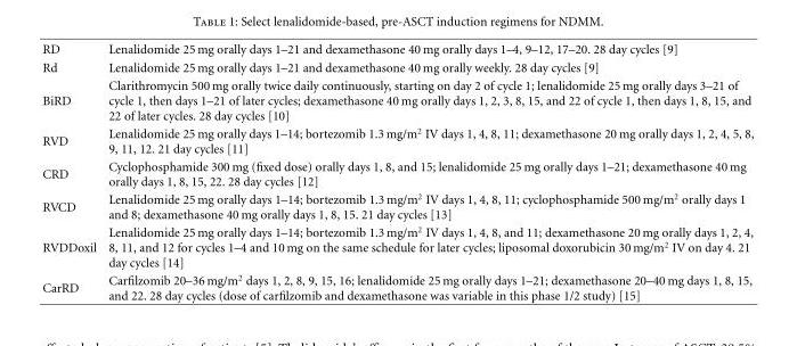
<table><tbody><tr><td>RD</td><td>Lenalidomide 25 mg orally days 1–21 and dexamethasone 40 mg orally days 1–4, 9–12, 17–20. 28 day cycles [9]</td></tr><tr><td>Rd</td><td>Lenalidomide 25 mg orally days 1–21 and dexamethasone 40 mg orally weekly. 28 day cycles [9]</td></tr><tr><td>BiRD</td><td>Clarithromycin 500 mg orally twice daily continuously, starting on day 2 of cycle 1; lenalidomide 25 mg orally days 3–21 of cycle 1, then days 1–21 of later cycles; dexamethasone 40 mg orally days 1, 2, 3, 8, 15, and 22 of cycle 1, then days 1, 8, 15, and 22 of later cycles. 28 day cycles [10]</td></tr><tr><td>RVD</td><td>Lenalidomide 25 mg orally days 1–14; bortezomib 1.3 mg/m<sup>2</sup> IV days 1, 4, 8, 11; dexamethasone 20 mg orally days 1, 2, 4, 5, 8, 9, 11, 12. 21 day cycles [11]</td></tr><tr><td>CRD</td><td>Cyclophosphamide 300 mg (fixed dose) orally days 1, 8, and 15; lenalidomide 25 mg orally days 1–21; dexamethasone 40 mg orally days 1, 8, 15, 22. 28 day cycles [12]</td></tr><tr><td>RVCD</td><td>Lenalidomide 25 mg orally days 1–14; bortezomib 1.3 mg/m<sup>2</sup> IV days 1, 4, 8, 11; cyclophosphamide 500 mg/m<sup>2</sup> orally days 1 and 8; dexamethasone 40 mg orally days 1, 8, 15. 21 day cycles [13]</td></tr><tr><td>RVDDoxil</td><td>Lenalidomide 25 mg orally days 1–14; bortezomib 1.3 mg/m<sup>2</sup> IV days 1, 4, 8, and 11; dexamethasone 20 mg orally days 1, 2, 4, 8, 11, and 12 for cycles 1–4 and 10 mg on the same schedule for later cycles; liposomal doxorubicin 30 mg/m<sup>2</sup> IV on day 4. 21 day cycles [14]</td></tr><tr><td>CarRD</td><td>Carfilzomib 20–36 mg/m<sup>2</sup> days 1, 2, 8, 9, 15, 16; lenalidomide 25 mg orally days 1–21; dexamethasone 20–40 mg days 1, 8, 15, and 22. 28 day cycles (dose of carfilzomib and dexamethasone was variable in this phase 1/2 study) [15]</td></tr></tbody></table>